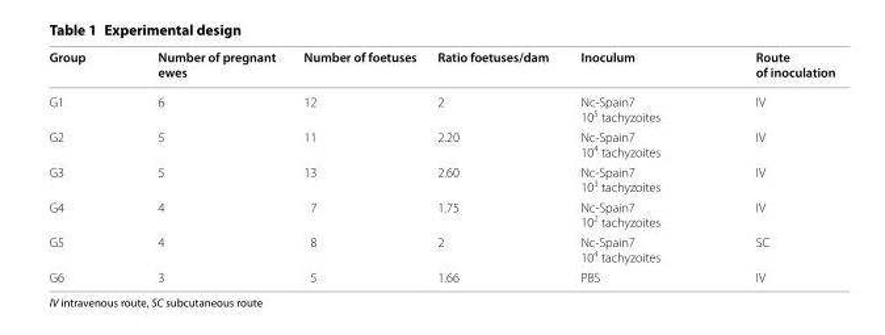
<table><thead><tr><td>Group</td><td>Number of pregnant ewes</td><td>Number of foetuses</td><td>Ratio foetuses/dam</td><td>Inoculum</td><td>Route of inoculation</td></tr></thead><tbody><tr><td>G1</td><td>6</td><td>12</td><td>2</td><td>Nc‑Spain7 10<sup>5</sup> tachyzoites</td><td>IV</td></tr><tr><td>G2</td><td>5</td><td>11</td><td>2.20</td><td>Nc‑Spain7 10<sup>4</sup> tachyzoites</td><td>IV</td></tr><tr><td>G3</td><td>5</td><td>13</td><td>2.60</td><td>Nc‑Spain7 10<sup>3</sup> tachyzoites</td><td>IV</td></tr><tr><td>G4</td><td>4</td><td>7</td><td>1.75</td><td>Nc‑Spain7 10<sup>2</sup> tachyzoites</td><td>IV</td></tr><tr><td>G5</td><td>4</td><td>8</td><td>2</td><td>Nc‑Spain7 10<sup>4</sup> tachyzoites</td><td>SC</td></tr><tr><td>G6</td><td>3</td><td>5</td><td>1.66</td><td>PBS</td><td>IV</td></tr></tbody></table>